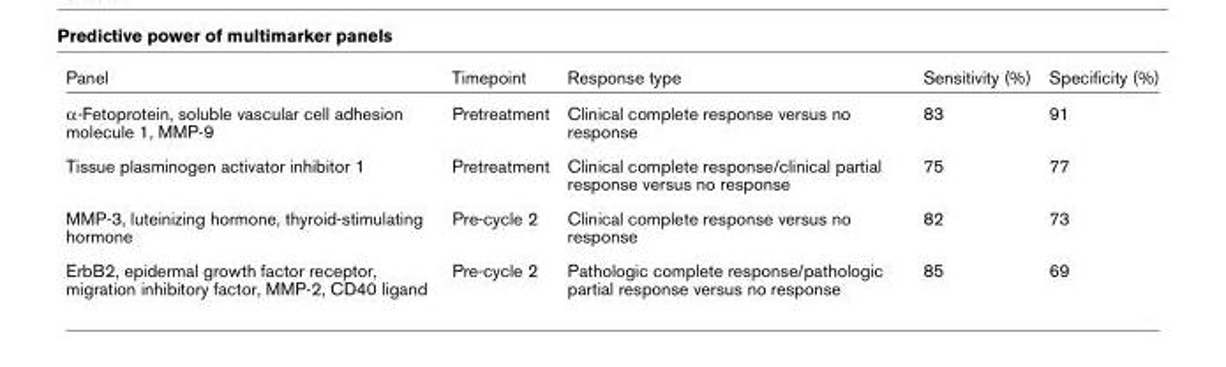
<table><thead><tr><td>Panel</td><td>Timepoint</td><td>Response type</td><td>Sensitivity (%)</td><td>Specificity (%)</td></tr></thead><tbody><tr><td>α-Fetoprotein, soluble vascular cell adhesion molecule 1, MMP-9</td><td>Pretreatment</td><td>Clinical complete response versus no response</td><td>83</td><td>91</td></tr><tr><td>Tissue plasminogen activator inhibitor 1</td><td>Pretreatment</td><td>Clinical complete response/clinical partial response versus no response</td><td>75</td><td>77</td></tr><tr><td>MMP-3, luteinizing hormone, thyroid-stimulating hormone</td><td>Pre-cycle 2</td><td>Clinical complete response versus no response</td><td>82</td><td>73</td></tr><tr><td>ErbB2, epidermal growth factor receptor, migration inhibitory factor, MMP-2, CD40 ligand</td><td>Pre-cycle 2</td><td>Pathologic complete response/pathologic partial response versus no response</td><td>85</td><td>69</td></tr></tbody></table>